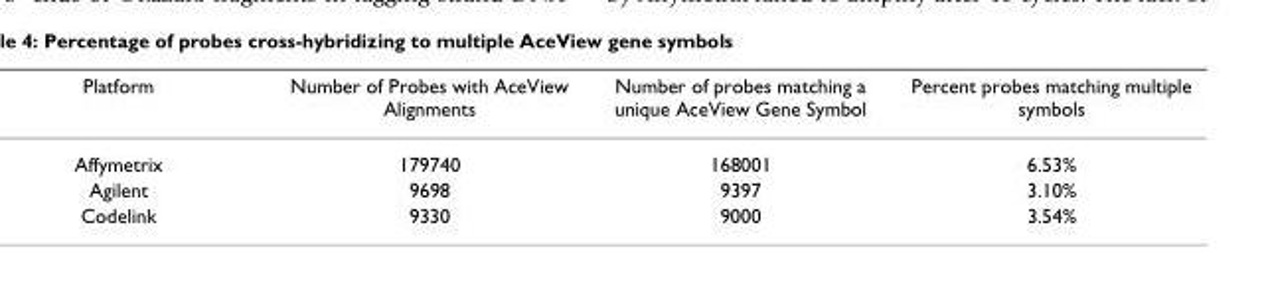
<table><thead><tr><td>Platform</td><td>Number of Probes with AceView Alignments</td><td>Number of probes matching a unique AceView Gene Symbol</td><td>Percent probes matching multiple symbols</td></tr></thead><tbody><tr><td>Affymetrix</td><td>179740</td><td>168001</td><td>6.53%</td></tr><tr><td>Agilent</td><td>9698</td><td>9397</td><td>3.10%</td></tr><tr><td>Codelink</td><td>9330</td><td>9000</td><td>3.54%</td></tr></tbody></table>